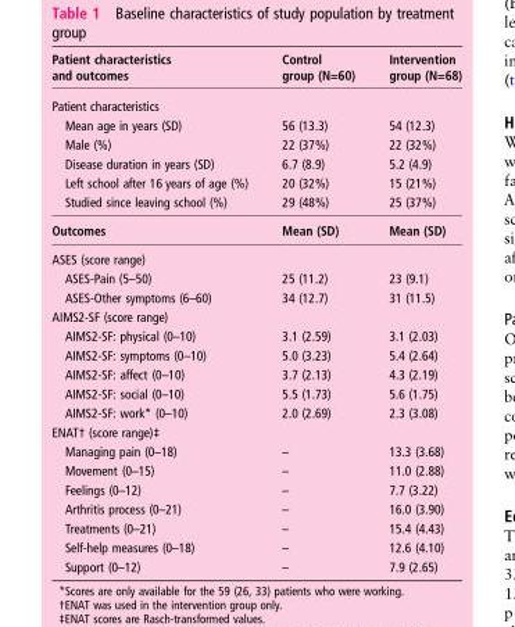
<table><thead><tr><td>Patient characteristics and outcomes</td><td>Control group (N=60)</td><td>Intervention group (N=68)</td></tr></thead><tbody><tr><td colspan="3">Patient characteristics</td></tr><tr><td>Mean age in years (SD)</td><td>56 (13.3)</td><td>54 (12.3)</td></tr><tr><td>Male (%)</td><td>22 (37%)</td><td>22 (32%)</td></tr><tr><td>Disease duration in years (SD)</td><td>6.7 (8.9)</td><td>5.2 (4.9)</td></tr><tr><td>Left school after 16 years of age (%)</td><td>20 (32%)</td><td>15 (21%)</td></tr><tr><td>Studied since leaving school (%)</td><td>29 (48%)</td><td>25 (37%)</td></tr><tr><td>Outcomes</td><td>Mean (SD)</td><td>Mean (SD)</td></tr><tr><td colspan="3">ASES (score range)</td></tr><tr><td>ASES-Pain (5–50)</td><td>25 (11.2)</td><td>23 (9.1)</td></tr><tr><td>ASES-Other symptoms (6–60)</td><td>34 (12.7)</td><td>31 (11.5)</td></tr><tr><td colspan="3">AIMS2-SF (score range)</td></tr><tr><td>AIMS2-SF: physical (0–10)</td><td>3.1 (2.59)</td><td>3.1 (2.03)</td></tr><tr><td>AIMS2-SF: symptoms (0–10)</td><td>5.0 (3.23)</td><td>5.4 (2.64)</td></tr><tr><td>AIMS2-SF: affect (0–10)</td><td>3.7 (2.13)</td><td>4.3 (2.19)</td></tr><tr><td>AIMS2-SF: social (0–10)</td><td>5.5 (1.73)</td><td>5.6 (1.75)</td></tr><tr><td>AIMS2-SF: work* (0–10)</td><td>2.0 (2.69)</td><td>2.3 (3.08)</td></tr><tr><td colspan="3">ENAT† (score range)‡</td></tr><tr><td>Managing pain (0–18)</td><td>–</td><td>13.3 (3.68)</td></tr><tr><td>Movement (0–15)</td><td>–</td><td>11.0 (2.88)</td></tr><tr><td>Feelings (0–12)</td><td>–</td><td>7.7 (3.22)</td></tr><tr><td>Arthritis process (0–21)</td><td>–</td><td>16.0 (3.90)</td></tr><tr><td>Treatments (0–21)</td><td>–</td><td>15.4 (4.43)</td></tr><tr><td>Self-help measures (0–18)</td><td>–</td><td>12.6 (4.10)</td></tr><tr><td>Support (0–12)</td><td>–</td><td>7.9 (2.65)</td></tr></tbody></table>